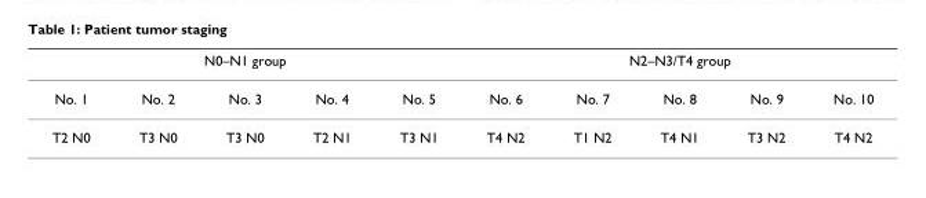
<table><thead><tr><td colspan="5">N0–N1 group</td><td colspan="5">N2–N3/T4 group</td></tr><tr><td>No. 1</td><td>No. 2</td><td>No. 3</td><td>No. 4</td><td>No. 5</td><td>No. 6</td><td>No. 7</td><td>No. 8</td><td>No. 9</td><td>No. 10</td></tr></thead><tbody><tr><td>T2 N0</td><td>T3 N0</td><td>T3 N0</td><td>T2 N1</td><td>T3 N1</td><td>T4 N2</td><td>T1 N2</td><td>T4 N1</td><td>T3 N2</td><td>T4 N2</td></tr></tbody></table>